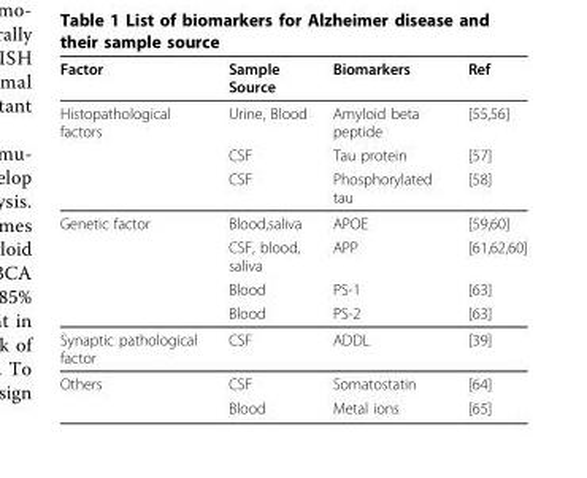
<table><thead><tr><td>Factor</td><td>Sample Source</td><td>Biomarkers</td><td>Ref</td></tr></thead><tbody><tr><td rowspan="3">Histopathological factors</td><td>Urine, Blood</td><td>Amyloid beta peptide</td><td>[55,56]</td></tr><tr><td>CSF</td><td>Tau protein</td><td>[57]</td></tr><tr><td>CSF</td><td>Phosphorylated tau</td><td>[58]</td></tr><tr><td rowspan="4">Genetic factor</td><td>Blood,saliva</td><td>APOE</td><td>[59,60]</td></tr><tr><td>CSF, blood, saliva</td><td>APP</td><td>[61,62,60]</td></tr><tr><td>Blood</td><td>PS-1</td><td>[63]</td></tr><tr><td>Blood</td><td>PS-2</td><td>[63]</td></tr><tr><td>Synaptic pathological factor</td><td>CSF</td><td>ADDL</td><td>[39]</td></tr><tr><td rowspan="2">Others</td><td>CSF</td><td>Somatostatin</td><td>[64]</td></tr><tr><td>Blood</td><td>Metal ions</td><td>[65]</td></tr></tbody></table>